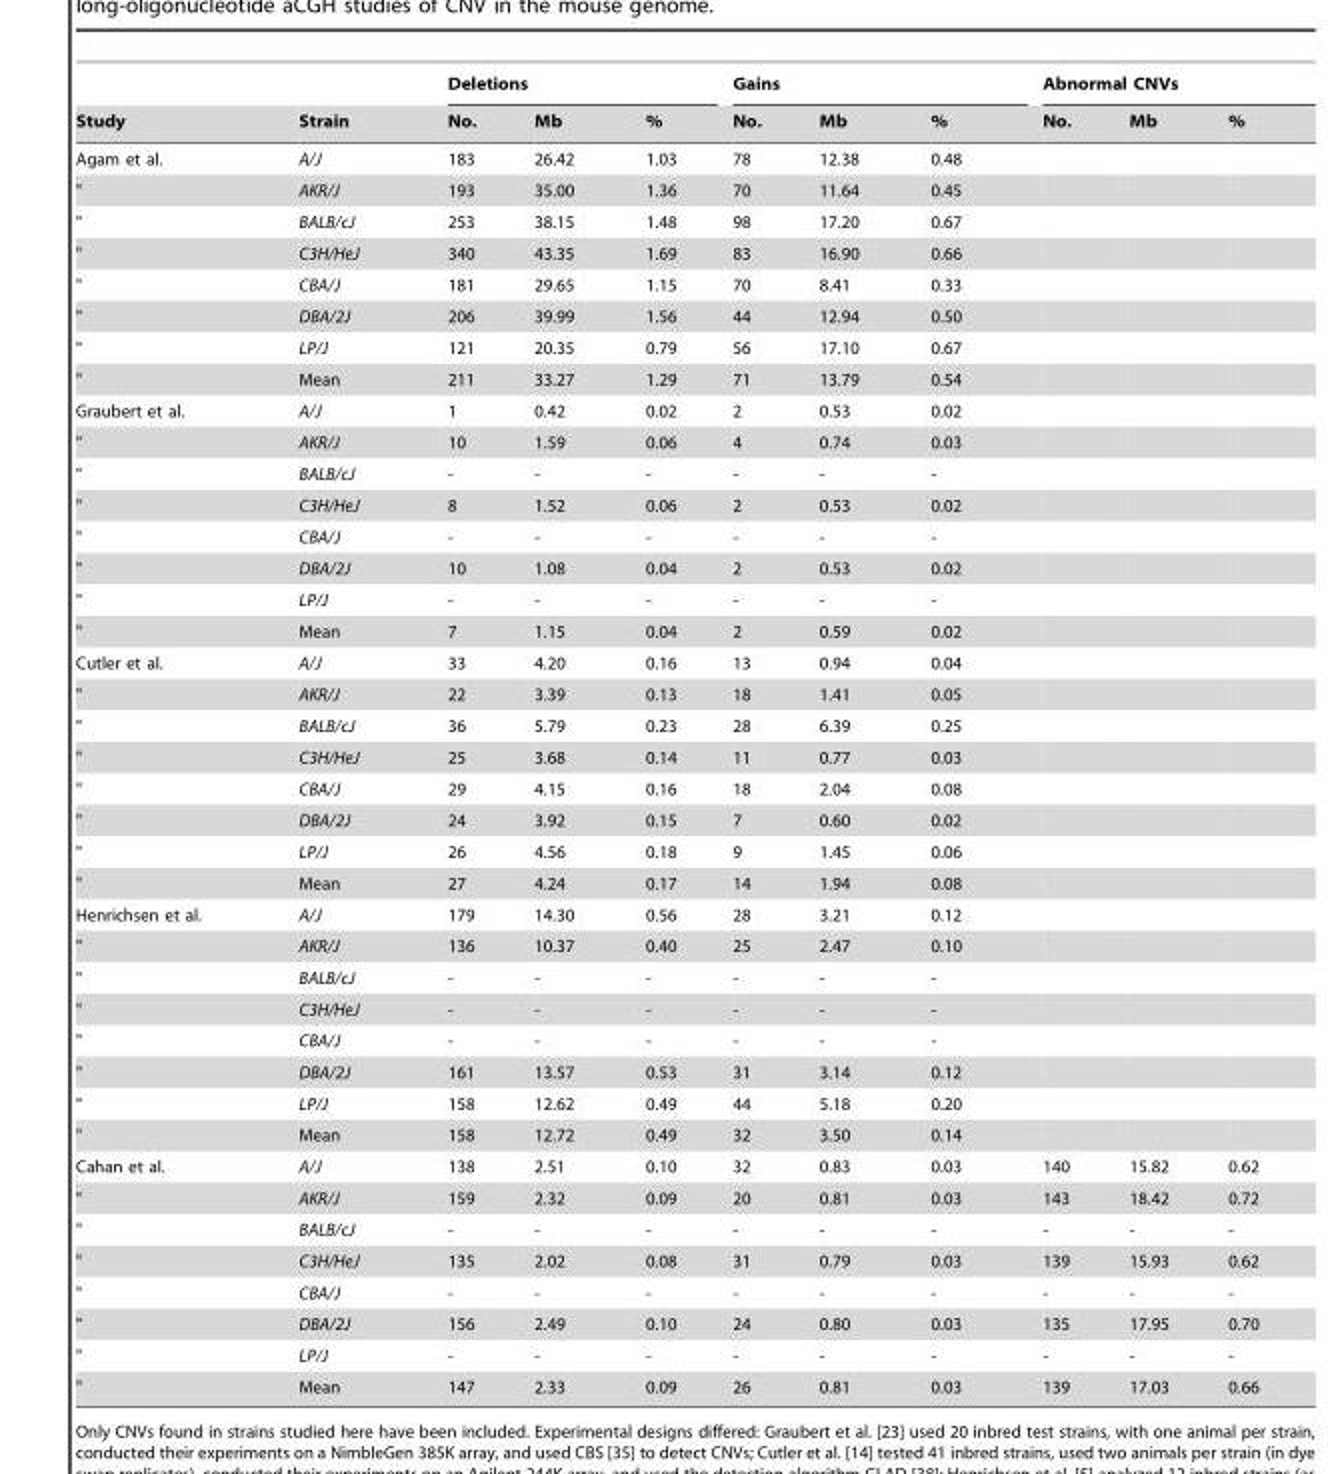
<table><thead><tr><td rowspan="2">Study</td><td rowspan="2">Strain</td><td colspan="3">Deletions</td><td colspan="3">Gains</td><td colspan="3">Abnormal CNVs</td></tr><tr><td>No.</td><td>Mb</td><td>%</td><td>No.</td><td>Mb</td><td>%</td><td>No.</td><td>Mb</td><td>%</td></tr></thead><tbody><tr><td>Agam et al.</td><td>A/J</td><td>183</td><td>26.42</td><td>1.03</td><td>78</td><td>12.38</td><td>0.48</td><td></td><td></td><td></td></tr><tr><td>&quot;</td><td>AKR/J</td><td>193</td><td>35.00</td><td>1.36</td><td>70</td><td>11.64</td><td>0.45</td><td></td><td></td><td></td></tr><tr><td>&quot;</td><td>BALB/cJ</td><td>253</td><td>38.15</td><td>1.48</td><td>98</td><td>17.20</td><td>0.67</td><td></td><td></td><td></td></tr><tr><td>&quot;</td><td>C3H/HeJ</td><td>340</td><td>43.35</td><td>1.69</td><td>83</td><td>16.90</td><td>0.66</td><td></td><td></td><td></td></tr><tr><td>&quot;</td><td>CBA/J</td><td>181</td><td>29.65</td><td>1.15</td><td>70</td><td>8.41</td><td>0.33</td><td></td><td></td><td></td></tr><tr><td>&quot;</td><td>DBA/2J</td><td>206</td><td>39.99</td><td>1.56</td><td>44</td><td>12.94</td><td>0.50</td><td></td><td></td><td></td></tr><tr><td>&quot;</td><td>LP/J</td><td>121</td><td>20.35</td><td>0.79</td><td>56</td><td>17.10</td><td>0.67</td><td></td><td></td><td></td></tr><tr><td>&quot;</td><td>Mean</td><td>211</td><td>33.27</td><td>1.29</td><td>71</td><td>13.79</td><td>0.54</td><td></td><td></td><td></td></tr><tr><td>Graubert et al.</td><td>A/J</td><td>1</td><td>0.42</td><td>0.02</td><td>2</td><td>0.53</td><td>0.02</td><td></td><td></td><td></td></tr><tr><td>&quot;</td><td>AKR/J</td><td>10</td><td>1.59</td><td>0.06</td><td>4</td><td>0.74</td><td>0.03</td><td></td><td></td><td></td></tr><tr><td>&quot;</td><td>BALB/cJ</td><td>-</td><td>-</td><td>-</td><td>-</td><td>-</td><td>-</td><td></td><td></td><td></td></tr><tr><td>&quot;</td><td>C3H/HeJ</td><td>8</td><td>1.52</td><td>0.06</td><td>2</td><td>0.53</td><td>0.02</td><td></td><td></td><td></td></tr><tr><td>&quot;</td><td>CBA/J</td><td>-</td><td>-</td><td>-</td><td>-</td><td>-</td><td>-</td><td></td><td></td><td></td></tr><tr><td>&quot;</td><td>DBA/2J</td><td>10</td><td>1.08</td><td>0.04</td><td>2</td><td>0.53</td><td>0.02</td><td></td><td></td><td></td></tr><tr><td>&quot;</td><td>LP/J</td><td>-</td><td>-</td><td>-</td><td>-</td><td>-</td><td>-</td><td></td><td></td><td></td></tr><tr><td>&quot;</td><td>Mean</td><td>7</td><td>1.15</td><td>0.04</td><td>2</td><td>0.59</td><td>0.02</td><td></td><td></td><td></td></tr><tr><td>Cutler et al.</td><td>A/J</td><td>33</td><td>4.20</td><td>0.16</td><td>13</td><td>0.94</td><td>0.04</td><td></td><td></td><td></td></tr><tr><td>&quot;</td><td>AKR/J</td><td>22</td><td>3.39</td><td>0.13</td><td>18</td><td>1.41</td><td>0.05</td><td></td><td></td><td></td></tr><tr><td>&quot;</td><td>BALB/cJ</td><td>36</td><td>5.79</td><td>0.23</td><td>28</td><td>6.39</td><td>0.25</td><td></td><td></td><td></td></tr><tr><td>&quot;</td><td>C3H/HeJ</td><td>25</td><td>3.68</td><td>0.14</td><td>11</td><td>0.77</td><td>0.03</td><td></td><td></td><td></td></tr><tr><td>&quot;</td><td>CBA/J</td><td>29</td><td>4.15</td><td>0.16</td><td>18</td><td>2.04</td><td>0.08</td><td></td><td></td><td></td></tr><tr><td>&quot;</td><td>DBA/2J</td><td>24</td><td>3.92</td><td>0.15</td><td>7</td><td>0.60</td><td>0.02</td><td></td><td></td><td></td></tr><tr><td>&quot;</td><td>LP/J</td><td>26</td><td>4.56</td><td>0.18</td><td>9</td><td>1.45</td><td>0.06</td><td></td><td></td><td></td></tr><tr><td>&quot;</td><td>Mean</td><td>27</td><td>4.24</td><td>0.17</td><td>14</td><td>1.94</td><td>0.08</td><td></td><td></td><td></td></tr><tr><td>Henrichsen et al.</td><td>A/J</td><td>179</td><td>14.30</td><td>0.56</td><td>28</td><td>3.21</td><td>0.12</td><td></td><td></td><td></td></tr><tr><td>&quot;</td><td>AKR/J</td><td>136</td><td>10.37</td><td>0.40</td><td>25</td><td>2.47</td><td>0.10</td><td></td><td></td><td></td></tr><tr><td>&quot;</td><td>BALB/cJ</td><td>-</td><td>-</td><td>-</td><td>-</td><td>-</td><td>-</td><td></td><td></td><td></td></tr><tr><td>&quot;</td><td>C3H/HeJ</td><td>-</td><td>-</td><td>-</td><td>-</td><td>-</td><td>-</td><td></td><td></td><td></td></tr><tr><td>&quot;</td><td>CBA/J</td><td>-</td><td>-</td><td>-</td><td>-</td><td>-</td><td>-</td><td></td><td></td><td></td></tr><tr><td>&quot;</td><td>DBA/2J</td><td>161</td><td>13.57</td><td>0.53</td><td>31</td><td>3.14</td><td>0.12</td><td></td><td></td><td></td></tr><tr><td>&quot;</td><td>LP/J</td><td>158</td><td>12.62</td><td>0.49</td><td>44</td><td>5.18</td><td>0.20</td><td></td><td></td><td></td></tr><tr><td>&quot;</td><td>Mean</td><td>158</td><td>12.72</td><td>0.49</td><td>32</td><td>3.50</td><td>0.14</td><td></td><td></td><td></td></tr><tr><td>Cahan et al.</td><td>A/J</td><td>138</td><td>2.51</td><td>0.10</td><td>32</td><td>0.83</td><td>0.03</td><td>140</td><td>15.82</td><td>0.62</td></tr><tr><td>&quot;</td><td>AKR/J</td><td>159</td><td>2.32</td><td>0.09</td><td>20</td><td>0.81</td><td>0.03</td><td>143</td><td>18.42</td><td>0.72</td></tr><tr><td>&quot;</td><td>BALB/cJ</td><td>-</td><td>-</td><td>-</td><td>-</td><td>-</td><td>-</td><td>-</td><td>-</td><td>-</td></tr><tr><td>&quot;</td><td>C3H/HeJ</td><td>135</td><td>2.02</td><td>0.08</td><td>31</td><td>0.79</td><td>0.03</td><td>139</td><td>15.93</td><td>0.62</td></tr><tr><td>&quot;</td><td>CBA/J</td><td>-</td><td>-</td><td>-</td><td>-</td><td>-</td><td>-</td><td>-</td><td>-</td><td>-</td></tr><tr><td>&quot;</td><td>DBA/2J</td><td>156</td><td>2.49</td><td>0.10</td><td>24</td><td>0.80</td><td>0.03</td><td>135</td><td>17.95</td><td>0.70</td></tr><tr><td>&quot;</td><td>LP/J</td><td>-</td><td>-</td><td>-</td><td>-</td><td>-</td><td>-</td><td>-</td><td>-</td><td>-</td></tr><tr><td>&quot;</td><td>Mean</td><td>147</td><td>2.33</td><td>0.09</td><td>26</td><td>0.81</td><td>0.03</td><td>139</td><td>17.03</td><td>0.66</td></tr></tbody></table>